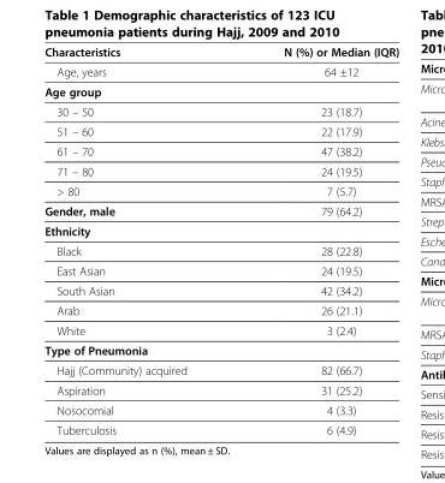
<table><thead><tr><td>Characteristics</td><td>N (%) or Median (IQR)</td></tr></thead><tbody><tr><td>Age, years</td><td>64 ±12</td></tr><tr><td colspan="2">Age group</td></tr><tr><td>30 – 50</td><td>23 (18.7)</td></tr><tr><td>51 – 60</td><td>22 (17.9)</td></tr><tr><td>61 – 70</td><td>47 (38.2)</td></tr><tr><td>71 – 80</td><td>24 (19.5)</td></tr><tr><td>&gt; 80</td><td>7 (5.7)</td></tr><tr><td>Gender, male</td><td>79 (64.2)</td></tr><tr><td colspan="2">Ethnicity</td></tr><tr><td>Black</td><td>28 (22.8)</td></tr><tr><td>East Asian</td><td>24 (19.5)</td></tr><tr><td>South Asian</td><td>42 (34.2)</td></tr><tr><td>Arab</td><td>26 (21.1)</td></tr><tr><td>White</td><td>3 (2.4)</td></tr><tr><td colspan="2">Type of Pneumonia</td></tr><tr><td>Hajj (Community) acquired</td><td>82 (66.7)</td></tr><tr><td>Aspiration</td><td>31 (25.2)</td></tr><tr><td>Nosocomial</td><td>4 (3.3)</td></tr><tr><td>Tuberculosis</td><td>6 (4.9)</td></tr></tbody></table>